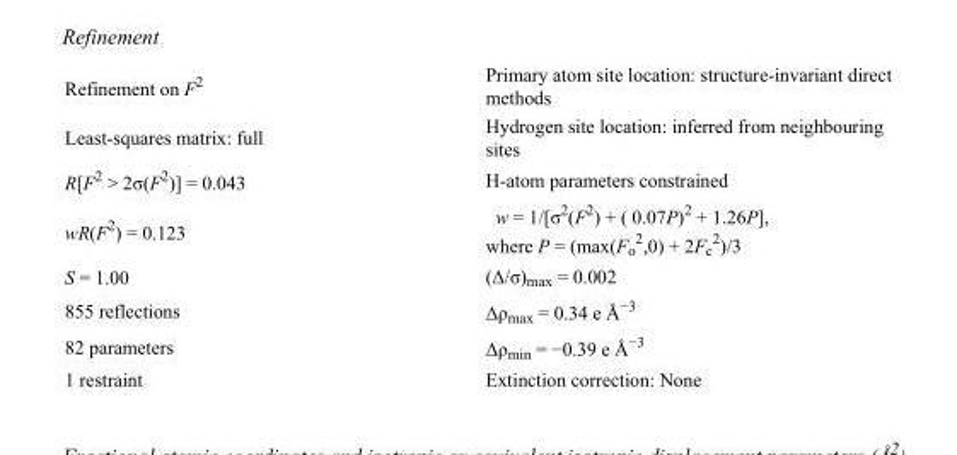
<table><tbody><tr><td>Refinement on F<sup>2</sup></td><td>Primary atom site location: structure-invariant direct methods</td></tr><tr><td>Least-squares matrix: full</td><td>Hydrogen site location: inferred from neighbouring sites</td></tr><tr><td>R[F<sup>2</sup> &gt; 2σ(F<sup>2</sup>)] = 0.043</td><td>H-atom parameters constrained</td></tr><tr><td>wR(F<sup>2</sup>) = 0.123</td><td>w = 1/[σ<sup>2</sup>(F<sup>2</sup>) + ( 0.07P)<sup>2</sup> + 1.26P], where P = (max(F<sub>o</sub> <sup>2</sup>,0) + 2F<sub>c</sub> <sup>2</sup>)/3</td></tr><tr><td>S = 1.00</td><td>(Δ/σ)<sub>max</sub> = 0.002</td></tr><tr><td>855 reflections</td><td>Δρ<sub>max</sub> = 0.34 e Å<sup>−3</sup></td></tr><tr><td>82 parameters</td><td>Δρ<sub>min</sub> = −0.39 e Å<sup>−3</sup></td></tr><tr><td>1 restraint</td><td>Extinction correction: None</td></tr></tbody></table>